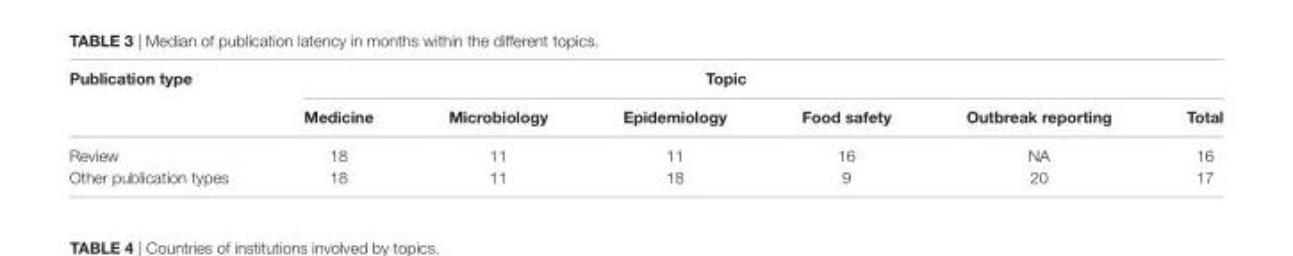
<table><thead><tr><td rowspan="2">Publication type</td><td colspan="6">Topic</td></tr><tr><td>Medicine</td><td>Microbiology</td><td>epidemiology</td><td>Food safety</td><td>Outbreak reporting</td><td>Total</td></tr></thead><tbody><tr><td>Review</td><td>18</td><td>11</td><td>11</td><td>16</td><td>NA</td><td>16</td></tr><tr><td>Other publication types</td><td>18</td><td>11</td><td>18</td><td>9</td><td>20</td><td>17</td></tr></tbody></table>